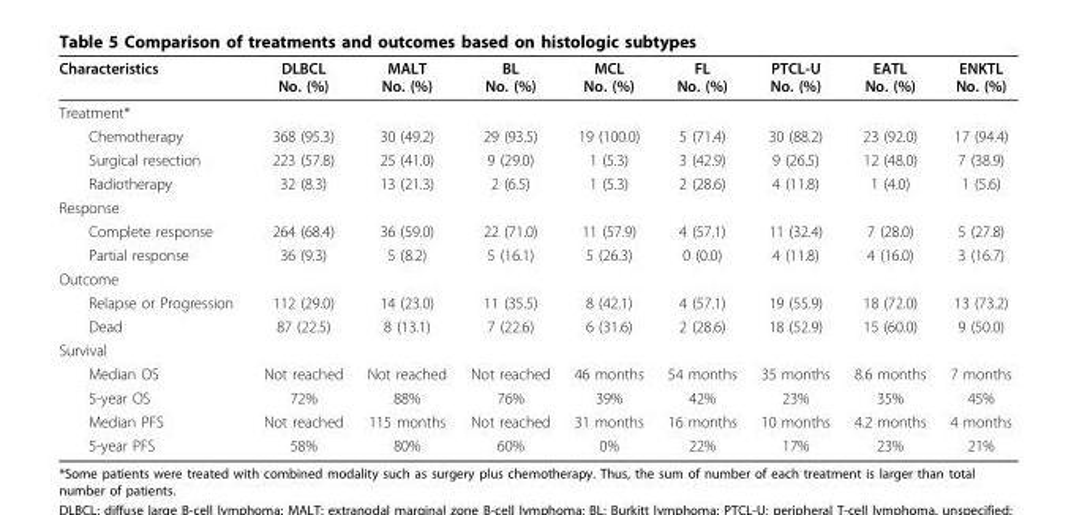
<table><thead><tr><td>Characteristics</td><td>DLBCL No. (%)</td><td>MALT No. (%)</td><td>BL No. (%)</td><td>MCL No. (%)</td><td>FL No. (%)</td><td>PTCL-U No. (%)</td><td>EATL No. (%)</td><td>ENKTL No. (%)</td></tr></thead><tbody><tr><td colspan="9">Treatment*</td></tr><tr><td>Chemotherapy</td><td>368 (95.3)</td><td>30 (49.2)</td><td>29 (93.5)</td><td>19 (100.0)</td><td>5 (71.4)</td><td>30 (88.2)</td><td>23 (92.0)</td><td>17 (94.4)</td></tr><tr><td>Surgical resection</td><td>223 (57.8)</td><td>25 (41.0)</td><td>9 (29.0)</td><td>1 (5.3)</td><td>3 (42.9)</td><td>9 (26.5)</td><td>12 (48.0)</td><td>7 (38.9)</td></tr><tr><td>Radiotherapy</td><td>32 (8.3)</td><td>13 (21.3)</td><td>2 (6.5)</td><td>1 (5.3)</td><td>2 (28.6)</td><td>4 (11.8)</td><td>1 (4.0)</td><td>1 (5.6)</td></tr><tr><td colspan="9">Response</td></tr><tr><td>Complete response</td><td>264 (68.4)</td><td>36 (59.0)</td><td>22 (71.0)</td><td>11 (57.9)</td><td>4 (57.1)</td><td>11 (32.4)</td><td>7 (28.0)</td><td>5 (27.8)</td></tr><tr><td>Partial response</td><td>36 (9.3)</td><td>5 (8.2)</td><td>5 (16.1)</td><td>5 (26.3)</td><td>0 (0.0)</td><td>4 (11.8)</td><td>4 (16.0)</td><td>3 (16.7)</td></tr><tr><td colspan="9">Outcome</td></tr><tr><td>Relapse or Progression</td><td>112 (29.0)</td><td>14 (23.0)</td><td>11 (35.5)</td><td>8 (42.1)</td><td>4 (57.1)</td><td>19 (55.9)</td><td>18 (72.0)</td><td>13 (73.2)</td></tr><tr><td>Dead</td><td>87 (22.5)</td><td>8 (13.1)</td><td>7 (22.6)</td><td>6 (31.6)</td><td>2 (28.6)</td><td>18 (52.9)</td><td>15 (60.0)</td><td>9 (50.0)</td></tr><tr><td colspan="9">Survival</td></tr><tr><td>Median OS</td><td>Not reached</td><td>Not reached</td><td>Not reached</td><td>46 months</td><td>54 months</td><td>35 months</td><td>8.6 months</td><td>7 months</td></tr><tr><td>5-year OS</td><td>72%</td><td>88%</td><td>76%</td><td>39%</td><td>42%</td><td>23%</td><td>35%</td><td>45%</td></tr><tr><td>Median PFS</td><td>Not reached</td><td>115 months</td><td>Not reached</td><td>31 months</td><td>16 months</td><td>10 months</td><td>4.2 months</td><td>4 months</td></tr><tr><td>5-year PFS</td><td>58%</td><td>80%</td><td>60%</td><td>0%</td><td>22%</td><td>17%</td><td>23%</td><td>21%</td></tr></tbody></table>